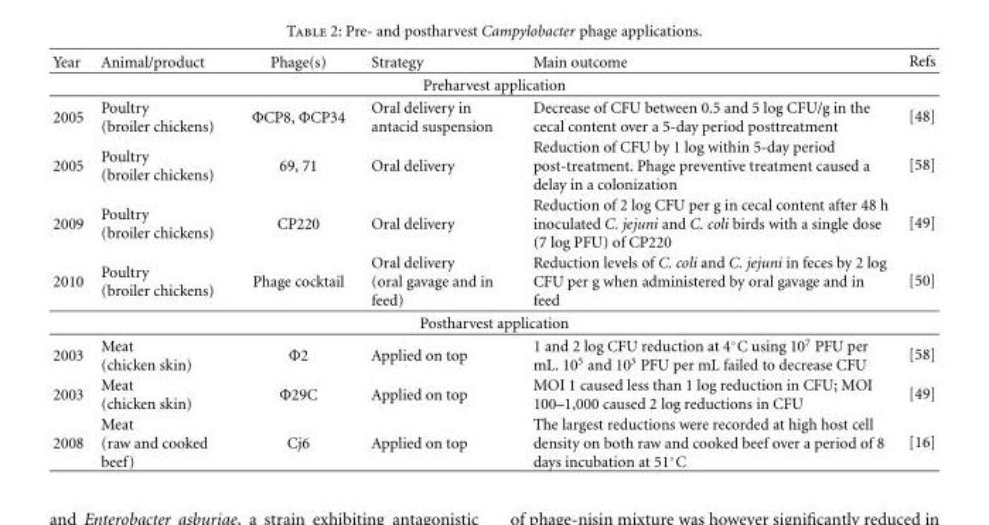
<table><thead><tr><td>Year</td><td>Animal/product</td><td>Phage(s)</td><td>Strategy</td><td>Main outcome</td><td>Refs</td></tr></thead><tbody><tr><td colspan="6">Preharvest application</td></tr><tr><td>2005</td><td>Poultry (broiler chickens)</td><td>ΦCP8, ΦCP34</td><td>Oral delivery in antacid suspension</td><td>Decrease of CFU between 0.5 and 5 log CFU/g in the cecal content over a 5-day period posttreatment</td><td>[48]</td></tr><tr><td>2005</td><td>Poultry (broiler chickens)</td><td>69, 71</td><td>Oral delivery</td><td>Reduction of CFU by 1 log within 5-day period post-treatment. Phage preventive treatment caused a delay in a colonization</td><td>[58]</td></tr><tr><td>2009</td><td>Poultry (broiler chickens)</td><td>CP220</td><td>Oral delivery</td><td>Reduction of 2 log CFU per g in cecal content after 48 h inoculated C. jejuni and C. coli birds with a single dose (7 log PFU) of CP220</td><td>[49]</td></tr><tr><td>2010</td><td>Poultry (broiler chickens)</td><td>Phage cocktail</td><td>Oral delivery (oral gavage and in feed)</td><td>Reduction levels of C. coli and C. jejuni in feces by 2 log CFU per g when administered by oral gavage and in feed</td><td>[50]</td></tr><tr><td colspan="6">Postharvest application</td></tr><tr><td>2003</td><td>Meat (chicken skin)</td><td>Φ2</td><td>Applied on top</td><td>1 and 2 log CFU reduction at 4◦C using 107 PFU per mL. 105 and 103 PFU per mL failed to decrease CFU</td><td>[58]</td></tr><tr><td>2003</td><td>Meat (chicken skin)</td><td>Φ29C</td><td>Applied on top</td><td>MOI 1 caused less than 1 log reduction in CFU; MOI 100–1,000 caused 2 log reductions in CFU</td><td>[49]</td></tr><tr><td>2008</td><td>Meat (raw and cooked beef)</td><td>Cj6</td><td>Applied on top</td><td>The largest reductions were recorded at high host cell density on both raw and cooked beef over a period of 8 days incubation at 51◦C</td><td>[16]</td></tr></tbody></table>